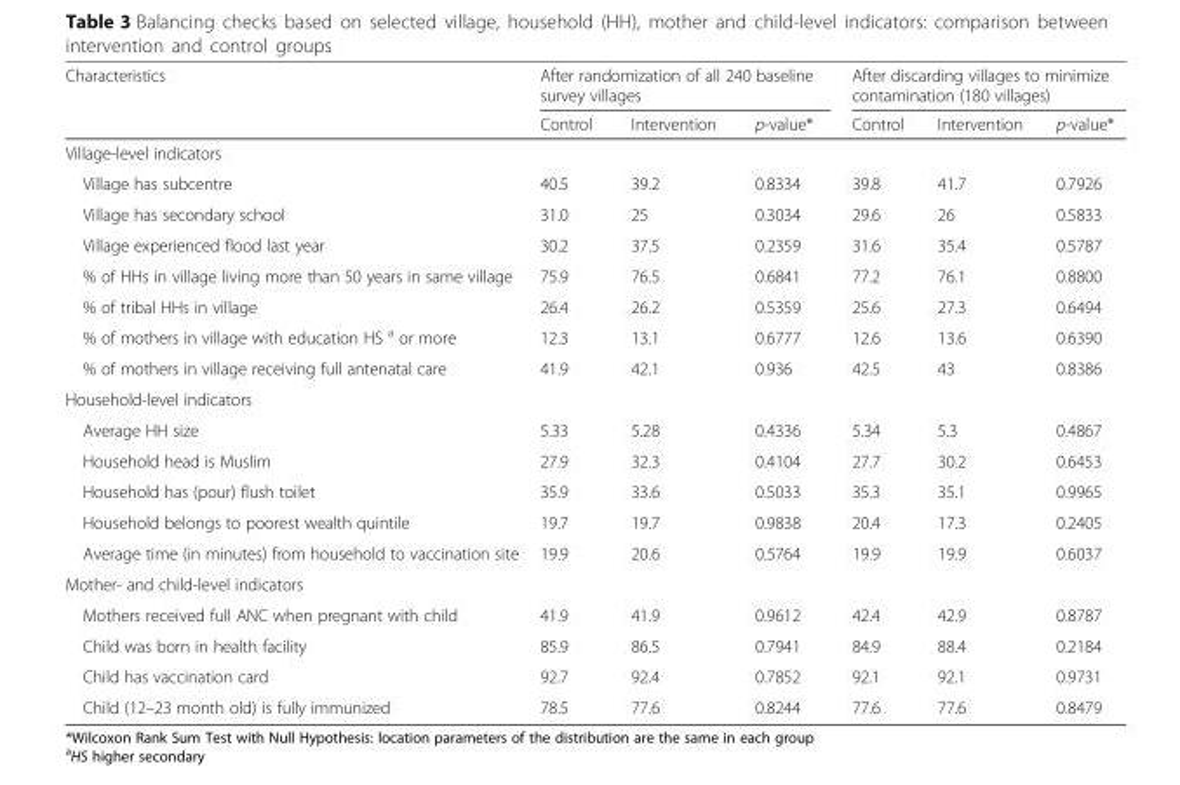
<table><thead><tr><td rowspan="2">Characteristics</td><td colspan="3">After randomization of all 240 baseline survey villages</td><td colspan="3">After discarding villages to minimize contamination (180 villages)</td></tr><tr><td>Control</td><td>Intervention</td><td>p-value*</td><td>Control</td><td>Intervention</td><td>p-value*</td></tr></thead><tbody><tr><td colspan="7">Village-level indicators</td></tr><tr><td>Village has subcentre</td><td>40.5</td><td>39.2</td><td>0.8334</td><td>39.8</td><td>41.7</td><td>0.7926</td></tr><tr><td>Village has secondary school</td><td>31.0</td><td>25</td><td>0.3034</td><td>29.6</td><td>26</td><td>0.5833</td></tr><tr><td>Village experienced flood last year</td><td>30.2</td><td>37.5</td><td>0.2359</td><td>31.6</td><td>35.4</td><td>0.5787</td></tr><tr><td>% of HHs in village living more than 50 years in same village</td><td>75.9</td><td>76.5</td><td>0.6841</td><td>77.2</td><td>76.1</td><td>0.8800</td></tr><tr><td>% of tribal HHs in village</td><td>26.4</td><td>26.2</td><td>0.5359</td><td>25.6</td><td>27.3</td><td>0.6494</td></tr><tr><td>% of mothers in village with education HS <sup>a</sup> or more</td><td>12.3</td><td>13.1</td><td>0.6777</td><td>12.6</td><td>13.6</td><td>0.6390</td></tr><tr><td>% of mothers in village receiving full antenatal care</td><td>41.9</td><td>42.1</td><td>0.936</td><td>42.5</td><td>43</td><td>0.8386</td></tr><tr><td colspan="7">Household-level indicators</td></tr><tr><td>Average HH size</td><td>5.33</td><td>5.28</td><td>0.4336</td><td>5.34</td><td>5.3</td><td>0.4867</td></tr><tr><td>Household head is Muslim</td><td>27.9</td><td>32.3</td><td>0.4104</td><td>27.7</td><td>30.2</td><td>0.6453</td></tr><tr><td>Household has (pour) flush toilet</td><td>35.9</td><td>33.6</td><td>0.5033</td><td>35.3</td><td>35.1</td><td>0.9965</td></tr><tr><td>Household belongs to poorest wealth quintile</td><td>19.7</td><td>19.7</td><td>0.9838</td><td>20.4</td><td>17.3</td><td>0.2405</td></tr><tr><td>Average time (in minutes) from household to vaccination site</td><td>19.9</td><td>20.6</td><td>0.5764</td><td>19.9</td><td>19.9</td><td>0.6037</td></tr><tr><td colspan="7">Mother- and child-level indicators</td></tr><tr><td>Mothers received full ANC when pregnant with child</td><td>41.9</td><td>41.9</td><td>0.9612</td><td>42.4</td><td>42.9</td><td>0.8787</td></tr><tr><td>Child was born in health facility</td><td>85.9</td><td>86.5</td><td>0.7941</td><td>84.9</td><td>88.4</td><td>0.2184</td></tr><tr><td>Child has vaccination card</td><td>92.7</td><td>92.4</td><td>0.7852</td><td>92.1</td><td>92.1</td><td>0.9731</td></tr><tr><td>Child (12–23 month old) is fully immunized</td><td>78.5</td><td>77.6</td><td>0.8244</td><td>77.6</td><td>77.6</td><td>0.8479</td></tr></tbody></table>